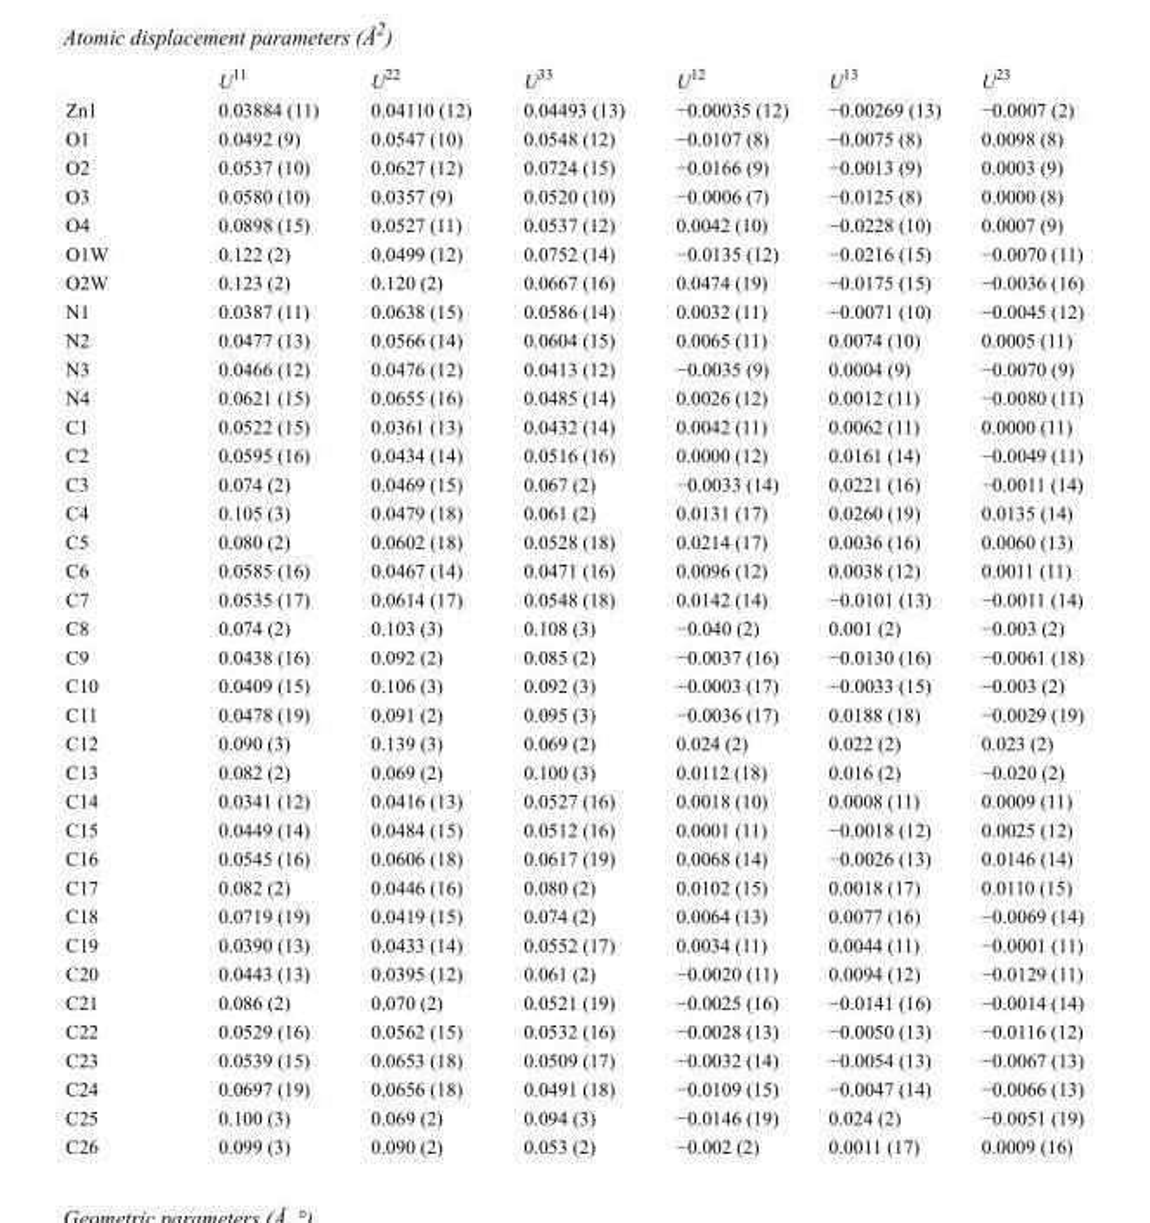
<table><thead><tr><td></td><td>U<sup>11</sup></td><td>U<sup>22</sup></td><td>U<sup>33</sup></td><td>U<sup>12</sup></td><td>U<sup>13</sup></td><td>U<sup>23</sup></td></tr></thead><tbody><tr><td>Zn1</td><td>0.03884 (11)</td><td>0.04110 (12)</td><td>0.04493 (13)</td><td>−0.00035 (12)</td><td>−0.00269 (13)</td><td>−0.0007 (2)</td></tr><tr><td>O1</td><td>0.0492 (9)</td><td>0.0547 (10)</td><td>0.0548 (12)</td><td>−0.0107 (8)</td><td>−0.0075 (8)</td><td>0.0098 (8)</td></tr><tr><td>O2</td><td>0.0537 (10)</td><td>0.0627 (12)</td><td>0.0724 (15)</td><td>−0.0166 (9)</td><td>−0.0013 (9)</td><td>0.0003 (9)</td></tr><tr><td>O3</td><td>0.0580 (10)</td><td>0.0357 (9)</td><td>0.0520 (10)</td><td>−0.0006 (7)</td><td>−0.0125 (8)</td><td>0.0000 (8)</td></tr><tr><td>O4</td><td>0.0898 (15)</td><td>0.0527 (11)</td><td>0.0537 (12)</td><td>0.0042 (10)</td><td>−0.0228 (10)</td><td>0.0007 (9)</td></tr><tr><td>O1W</td><td>0.122 (2)</td><td>0.0499 (12)</td><td>0.0752 (14)</td><td>−0.0135 (12)</td><td>−0.0216 (15)</td><td>−0.0070 (11)</td></tr><tr><td>O2W</td><td>0.123 (2)</td><td>0.120 (2)</td><td>0.0667 (16)</td><td>0.0474 (19)</td><td>−0.0175 (15)</td><td>−0.0036 (16)</td></tr><tr><td>N1</td><td>0.0387 (11)</td><td>0.0638 (15)</td><td>0.0586 (14)</td><td>0.0032 (11)</td><td>−0.0071 (10)</td><td>−0.0045 (12)</td></tr><tr><td>N2</td><td>0.0477 (13)</td><td>0.0566 (14)</td><td>0.0604 (15)</td><td>0.0065 (11)</td><td>0.0074 (10)</td><td>0.0005 (11)</td></tr><tr><td>N3</td><td>0.0466 (12)</td><td>0.0476 (12)</td><td>0.0413 (12)</td><td>−0.0035 (9)</td><td>0.0004 (9)</td><td>−0.0070 (9)</td></tr><tr><td>N4</td><td>0.0621 (15)</td><td>0.0655 (16)</td><td>0.0485 (14)</td><td>0.0026 (12)</td><td>0.0012 (11)</td><td>−0.0080 (11)</td></tr><tr><td>C1</td><td>0.0522 (15)</td><td>0.0361 (13)</td><td>0.0432 (14)</td><td>0.0042 (11)</td><td>0.0062 (11)</td><td>0.0000 (11)</td></tr><tr><td>C2</td><td>0.0595 (16)</td><td>0.0434 (14)</td><td>0.0516 (16)</td><td>0.0000 (12)</td><td>0.0161 (14)</td><td>−0.0049 (11)</td></tr><tr><td>C3</td><td>0.074 (2)</td><td>0.0469 (15)</td><td>0.067 (2)</td><td>−0.0033 (14)</td><td>0.0221 (16)</td><td>−0.0011 (14)</td></tr><tr><td>C4</td><td>0.105 (3)</td><td>0.0479 (18)</td><td>0.061 (2)</td><td>0.0131 (17)</td><td>0.0260 (19)</td><td>0.0135 (14)</td></tr><tr><td>C5</td><td>0.080 (2)</td><td>0.0602 (18)</td><td>0.0528 (18)</td><td>0.0214 (17)</td><td>0.0036 (16)</td><td>0.0060 (13)</td></tr><tr><td>C6</td><td>0.0585 (16)</td><td>0.0467 (14)</td><td>0.0471 (16)</td><td>0.0096 (12)</td><td>0.0038 (12)</td><td>0.0011 (11)</td></tr><tr><td>C7</td><td>0.0535 (17)</td><td>0.0614 (17)</td><td>0.0548 (18)</td><td>0.0142 (14)</td><td>−0.0101 (13)</td><td>−0.0011 (14)</td></tr><tr><td>C8</td><td>0.074 (2)</td><td>0.103 (3)</td><td>0.108 (3)</td><td>−0.040 (2)</td><td>0.001 (2)</td><td>−0.003 (2)</td></tr><tr><td>C9</td><td>0.0438 (16)</td><td>0.092 (2)</td><td>0.085 (2)</td><td>−0.0037 (16)</td><td>−0.0130 (16)</td><td>−0.0061 (18)</td></tr><tr><td>C10</td><td>0.0409 (15)</td><td>0.106 (3)</td><td>0.092 (3)</td><td>−0.0003 (17)</td><td>−0.0033 (15)</td><td>−0.003 (2)</td></tr><tr><td>C11</td><td>0.0478 (19)</td><td>0.091 (2)</td><td>0.095 (3)</td><td>−0.0036 (17)</td><td>0.0188 (18)</td><td>−0.0029 (19)</td></tr><tr><td>C12</td><td>0.090 (3)</td><td>0.139 (3)</td><td>0.069 (2)</td><td>0.024 (2)</td><td>0.022 (2)</td><td>0.023 (2)</td></tr><tr><td>C13</td><td>0.082 (2)</td><td>0.069 (2)</td><td>0.100 (3)</td><td>0.0112 (18)</td><td>0.016 (2)</td><td>−0.020 (2)</td></tr><tr><td>C14</td><td>0.0341 (12)</td><td>0.0416 (13)</td><td>0.0527 (16)</td><td>0.0018 (10)</td><td>0.0008 (11)</td><td>0.0009 (11)</td></tr><tr><td>C15</td><td>0.0449 (14)</td><td>0.0484 (15)</td><td>0.0512 (16)</td><td>0.0001 (11)</td><td>−0.0018 (12)</td><td>0.0025 (12)</td></tr><tr><td>C16</td><td>0.0545 (16)</td><td>0.0606 (18)</td><td>0.0617 (19)</td><td>0.0068 (14)</td><td>−0.0026 (13)</td><td>0.0146 (14)</td></tr><tr><td>C17</td><td>0.082 (2)</td><td>0.0446 (16)</td><td>0.080 (2)</td><td>0.0102 (15)</td><td>0.0018 (17)</td><td>0.0110 (15)</td></tr><tr><td>C18</td><td>0.0719 (19)</td><td>0.0419 (15)</td><td>0.074 (2)</td><td>0.0064 (13)</td><td>0.0077 (16)</td><td>−0.0069 (14)</td></tr><tr><td>C19</td><td>0.0390 (13)</td><td>0.0433 (14)</td><td>0.0552 (17)</td><td>0.0034 (11)</td><td>0.0044 (11)</td><td>−0.0001 (11)</td></tr><tr><td>C20</td><td>0.0443 (13)</td><td>0.0395 (12)</td><td>0.061 (2)</td><td>−0.0020 (11)</td><td>0.0094 (12)</td><td>−0.0129 (11)</td></tr><tr><td>C21</td><td>0.086 (2)</td><td>0.070 (2)</td><td>0.0521 (19)</td><td>−0.0025 (16)</td><td>−0.0141 (16)</td><td>−0.0014 (14)</td></tr><tr><td>C22</td><td>0.0529 (16)</td><td>0.0562 (15)</td><td>0.0532 (16)</td><td>−0.0028 (13)</td><td>−0.0050 (13)</td><td>−0.0116 (12)</td></tr><tr><td>C23</td><td>0.0539 (15)</td><td>0.0653 (18)</td><td>0.0509 (17)</td><td>−0.0032 (14)</td><td>−0.0054 (13)</td><td>−0.0067 (13)</td></tr><tr><td>C24</td><td>0.0697 (19)</td><td>0.0656 (18)</td><td>0.0491 (18)</td><td>−0.0109 (15)</td><td>−0.0047 (14)</td><td>−0.0066 (13)</td></tr><tr><td>C25</td><td>0.100 (3)</td><td>0.069 (2)</td><td>0.094 (3)</td><td>−0.0146 (19)</td><td>0.024 (2)</td><td>−0.0051 (19)</td></tr><tr><td>C26</td><td>0.099 (3)</td><td>0.090 (2)</td><td>0.053 (2)</td><td>−0.002 (2)</td><td>0.0011 (17)</td><td>0.0009 (16)</td></tr></tbody></table>